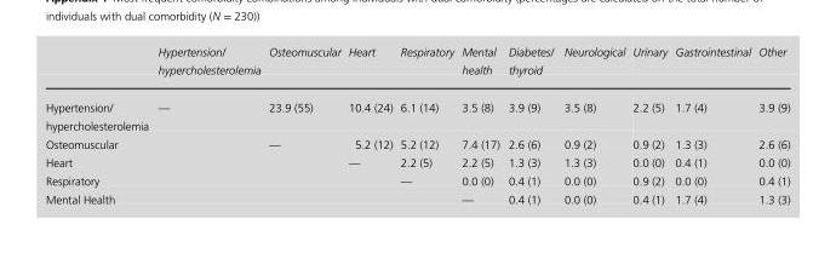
<table><thead><tr><td></td><td>Hypertension/ hypercholesterolemia</td><td>Osteomuscular</td><td>Heart</td><td>Respiratory</td><td>Mental health</td><td>Diabetes/ thyroid</td><td>Neurological</td><td>Urinary</td><td>Gastrointestinal</td><td>Other</td></tr></thead><tbody><tr><td>Hypertension/ hypercholesterolemia</td><td>—</td><td>23.9 (55)</td><td>10.4 (24)</td><td>6.1 (14)</td><td>3.5 (8)</td><td>3.9 (9)</td><td>3.5 (8)</td><td>2.2 (5)</td><td>1.7 (4)</td><td>3.9 (9)</td></tr><tr><td>Osteomuscular</td><td></td><td>—</td><td>5.2 (12)</td><td>5.2 (12)</td><td>7.4 (17)</td><td>2.6 (6)</td><td>0.9 (2)</td><td>0.9 (2)</td><td>1.3 (3)</td><td>2.6 (6)</td></tr><tr><td>Heart</td><td></td><td></td><td>—</td><td>2.2 (5)</td><td>2.2 (5)</td><td>1.3 (3)</td><td>1.3 (3)</td><td>0.0 (0)</td><td>0.4 (1)</td><td>0.0 (0)</td></tr><tr><td>Respiratory</td><td></td><td></td><td></td><td>—</td><td>0.0 (0)</td><td>0.4 (1)</td><td>0.0 (0)</td><td>0.9 (2)</td><td>0.0 (0)</td><td>0.4 (1)</td></tr><tr><td>Mental Health</td><td></td><td></td><td></td><td></td><td>—</td><td>0.4 (1)</td><td>0.0 (0)</td><td>0.4 (1)</td><td>1.7 (4)</td><td>1.3 (3)</td></tr></tbody></table>